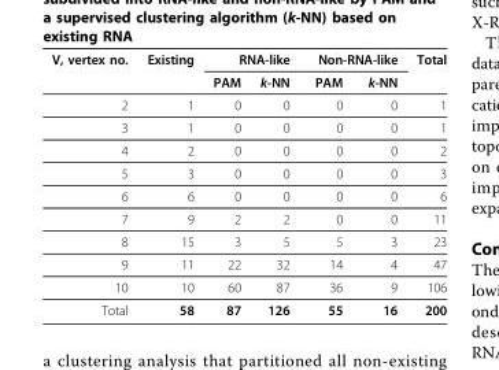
<table><thead><tr><td rowspan="2">V, vertex no.</td><td rowspan="2">Existing</td><td colspan="2">RNA-like</td><td colspan="2">Non-RNA-like</td><td rowspan="2">Total</td></tr><tr><td>PAM</td><td>k-NN</td><td>PAM</td><td>k-NN</td></tr></thead><tbody><tr><td>2</td><td>1</td><td>0</td><td>0</td><td>0</td><td>0</td><td>1</td></tr><tr><td>3</td><td>1</td><td>0</td><td>0</td><td>0</td><td>0</td><td>1</td></tr><tr><td>4</td><td>2</td><td>0</td><td>0</td><td>0</td><td>0</td><td>2</td></tr><tr><td>5</td><td>3</td><td>0</td><td>0</td><td>0</td><td>0</td><td>3</td></tr><tr><td>6</td><td>6</td><td>0</td><td>0</td><td>0</td><td>0</td><td>6</td></tr><tr><td>7</td><td>9</td><td>2</td><td>2</td><td>0</td><td>0</td><td>11</td></tr><tr><td>8</td><td>15</td><td>3</td><td>5</td><td>5</td><td>3</td><td>23</td></tr><tr><td>9</td><td>11</td><td>22</td><td>32</td><td>14</td><td>4</td><td>47</td></tr><tr><td>10</td><td>10</td><td>60</td><td>87</td><td>36</td><td>9</td><td>106</td></tr><tr><td>Total</td><td>58</td><td>87</td><td>126</td><td>55</td><td>16</td><td>200</td></tr></tbody></table>